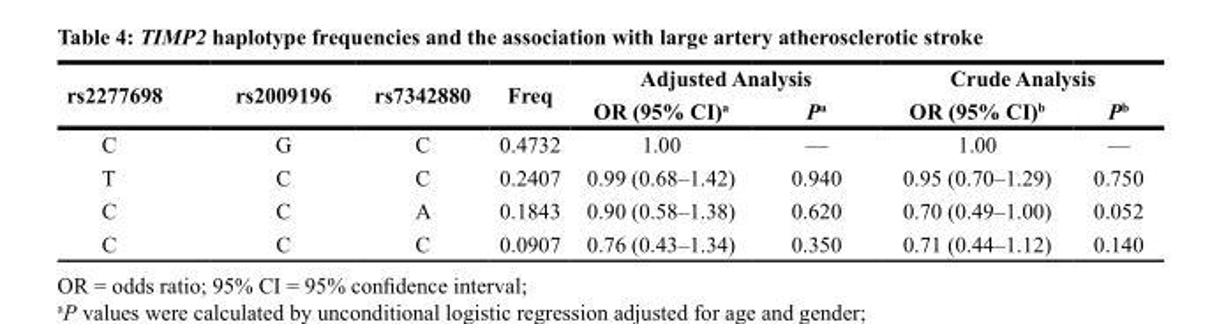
<table><thead><tr><td rowspan="2">rs2277698</td><td rowspan="2">rs2009196</td><td rowspan="2">rs7342880</td><td rowspan="2">Freq</td><td colspan="2">Adjusted Analysis</td><td colspan="2">Crude Analysis</td></tr><tr><td>OR (95% CI)<sup>a</sup></td><td>P<sup>a</sup></td><td>OR (95% CI)<sup>b</sup></td><td>P<sup>b</sup></td></tr></thead><tbody><tr><td>C</td><td>G</td><td>C</td><td>0.4732</td><td>1.00</td><td>—</td><td>1.00</td><td>—</td></tr><tr><td>T</td><td>C</td><td>C</td><td>0.2407</td><td>0.99 (0.68–1.42)</td><td>0.940</td><td>0.95 (0.70–1.29)</td><td>0.750</td></tr><tr><td>C</td><td>C</td><td>A</td><td>0.1843</td><td>0.90 (0.58–1.38)</td><td>0.620</td><td>0.70 (0.49–1.00)</td><td>0.052</td></tr><tr><td>C</td><td>C</td><td>C</td><td>0.0907</td><td>0.76 (0.43–1.34)</td><td>0.350</td><td>0.71 (0.44–1.12)</td><td>0.140</td></tr></tbody></table>